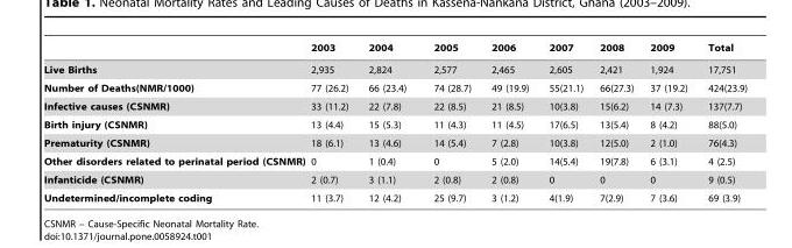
<table><thead><tr><td></td><td>2003</td><td>2004</td><td>2005</td><td>2006</td><td>2007</td><td>2008</td><td>2009</td><td>Total</td></tr></thead><tbody><tr><td>Live Births</td><td>2,935</td><td>2,824</td><td>2,577</td><td>2,465</td><td>2,605</td><td>2,421</td><td>1,924</td><td>17,751</td></tr><tr><td>Number of Deaths(NMR/1000)</td><td>77 (26.2)</td><td>66 (23.4)</td><td>74 (28.7)</td><td>49 (19.9)</td><td>55(21.1)</td><td>66(27.3)</td><td>37 (19.2)</td><td>424(23.9)</td></tr><tr><td>Infective causes (CSNMR)</td><td>33 (11.2)</td><td>22 (7.8)</td><td>22 (8.5)</td><td>21 (8.5)</td><td>10(3.8)</td><td>15(6.2)</td><td>14 (7.3)</td><td>137(7.7)</td></tr><tr><td>Birth injury (CSNMR)</td><td>13 (4.4)</td><td>15 (5.3)</td><td>11 (4.3)</td><td>11 (4.5)</td><td>17(6.5)</td><td>13(5.4)</td><td>8 (4.2)</td><td>88(5.0)</td></tr><tr><td>Prematurity (CSNMR)</td><td>18 (6.1)</td><td>13 (4.6)</td><td>14 (5.4)</td><td>7 (2.8)</td><td>10(3.8)</td><td>12(5.0)</td><td>2 (1.0)</td><td>76(4.3)</td></tr><tr><td>Other disorders related to perinatal period (CSNMR)</td><td>0</td><td>1 (0.4)</td><td>0</td><td>5 (2.0)</td><td>14(5.4)</td><td>19(7.8)</td><td>6 (3.1)</td><td>4 (2.5)</td></tr><tr><td>Infanticide (CSNMR)</td><td>2 (0.7)</td><td>3 (1.1)</td><td>2 (0.8)</td><td>2 (0.8)</td><td>0</td><td>0</td><td>0</td><td>9 (0.5)</td></tr><tr><td>Undetermined/incomplete coding</td><td>11 (3.7)</td><td>12 (4.2)</td><td>25 (9.7)</td><td>3 (1.2)</td><td>4(1.9)</td><td>7(2.9)</td><td>7 (3.6)</td><td>69 (3.9)</td></tr></tbody></table>